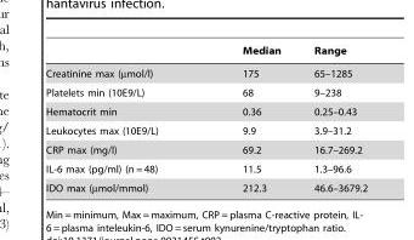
<table><thead><tr><td></td><td>Median</td><td>Range</td></tr></thead><tbody><tr><td>Creatinine max (µmol/l)</td><td>175</td><td>65–1285</td></tr><tr><td>Platelets min (10E9/L)</td><td>68</td><td>9–238</td></tr><tr><td>Hematocrit min</td><td>0.36</td><td>0.25–0.43</td></tr><tr><td>Leukocytes max (10E9/L)</td><td>9.9</td><td>3.9–31.2</td></tr><tr><td>CRP max (mg/l)</td><td>69.2</td><td>16.7–269.2</td></tr><tr><td>IL-6 max (pg/ml) (n = 48)</td><td>11.5</td><td>1.3–96.6</td></tr><tr><td>IDO max (µmol/mmol)</td><td>212.3</td><td>46.6–3679.2</td></tr></tbody></table>